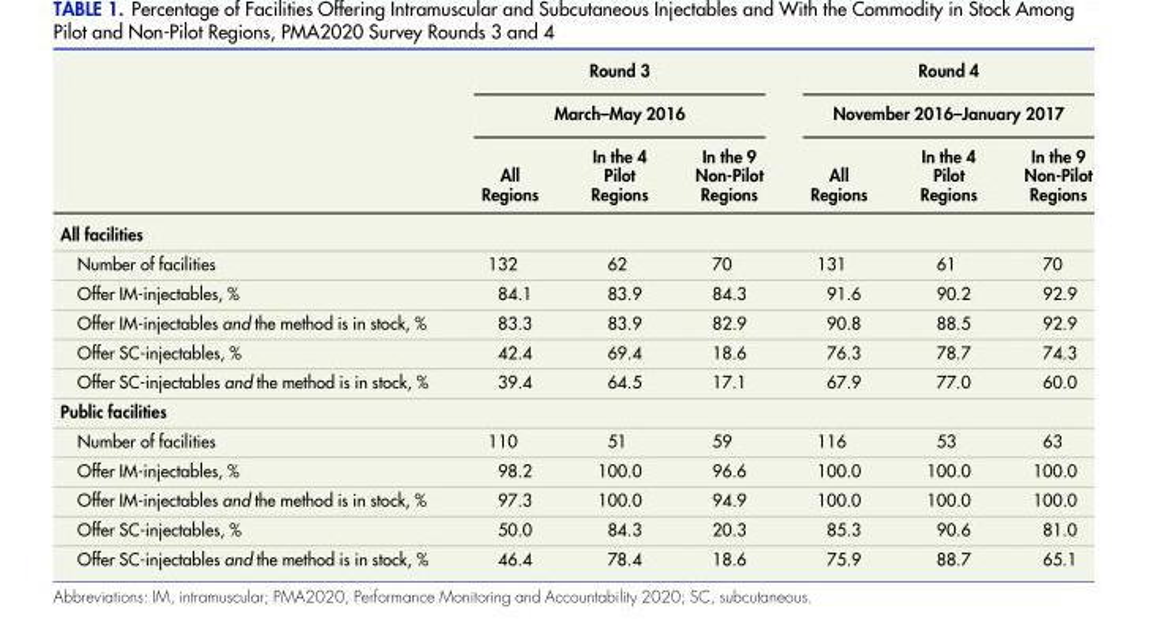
<table><thead><tr><td rowspan="3"></td><td rowspan="2" colspan="3">Round 3 March–May 2016</td><td rowspan="2" colspan="3">Round 4 November 2016–January 2017</td></tr><tr></tr><tr><td>All Regions</td><td>In the 4 Pilot Regions</td><td>In the 9 Non-Pilot Regions</td><td>All Regions</td><td>In the 4 Pilot Regions</td><td>In the 9 Non-Pilot Regions</td></tr></thead><tbody><tr><td colspan="7">All facilities</td></tr><tr><td>Number of facilities</td><td>132</td><td>62</td><td>70</td><td>131</td><td>61</td><td>70</td></tr><tr><td>Offer IM-injectables, %</td><td>84.1</td><td>83.9</td><td>84.3</td><td>91.6</td><td>90.2</td><td>92.9</td></tr><tr><td>Offer IM-injectables and the method is in stock, %</td><td>83.3</td><td>83.9</td><td>82.9</td><td>90.8</td><td>88.5</td><td>92.9</td></tr><tr><td>Offer SC-injectables, %</td><td>42.4</td><td>69.4</td><td>18.6</td><td>76.3</td><td>78.7</td><td>74.3</td></tr><tr><td>Offer SC-injectables and the method is in stock, %</td><td>39.4</td><td>64.5</td><td>17.1</td><td>67.9</td><td>77.0</td><td>60.0</td></tr><tr><td colspan="7">Public facilities</td></tr><tr><td>Number of facilities</td><td>110</td><td>51</td><td>59</td><td>116</td><td>53</td><td>63</td></tr><tr><td>Offer IM-injectables, %</td><td>98.2</td><td>100.0</td><td>96.6</td><td>100.0</td><td>100.0</td><td>100.0</td></tr><tr><td>Offer IM-injectables and the method is in stock, %</td><td>97.3</td><td>100.0</td><td>94.9</td><td>100.0</td><td>100.0</td><td>100.0</td></tr><tr><td>Offer SC-injectables, %</td><td>50.0</td><td>84.3</td><td>20.3</td><td>85.3</td><td>90.6</td><td>81.0</td></tr><tr><td>Offer SC-injectables and the method is in stock, %</td><td>46.4</td><td>78.4</td><td>18.6</td><td>75.9</td><td>88.7</td><td>65.1</td></tr></tbody></table>